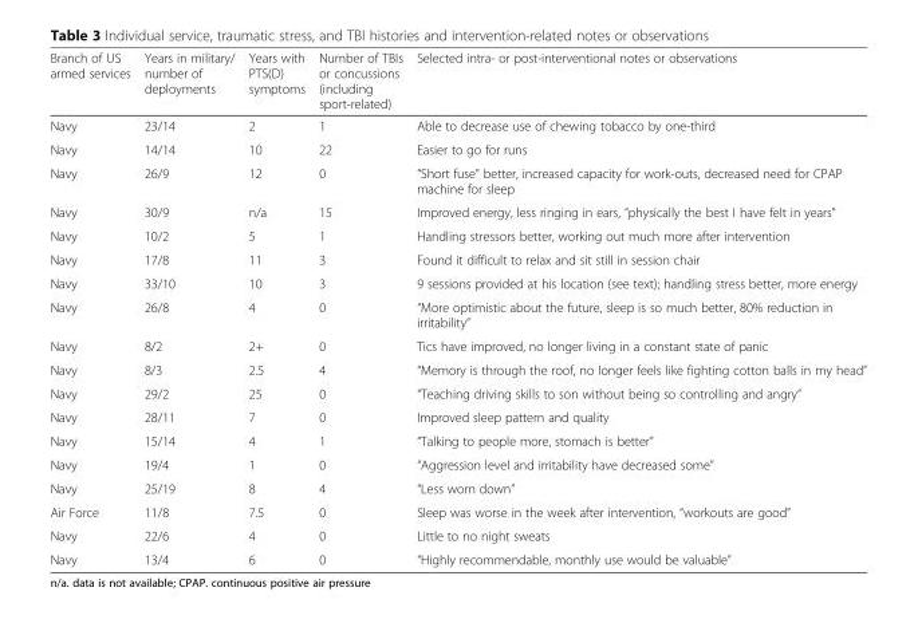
<table><thead><tr><td>Branch of US armed services</td><td>Years in military/ number of deployments</td><td>Years with PTS(D) symptoms</td><td>Number of TBIs or concussions (including sport-related)</td><td>Selected intra- or post-interventional notes or observations</td></tr></thead><tbody><tr><td>Navy</td><td>23/14</td><td>2</td><td>1</td><td>Able to decrease use of chewing tobacco by one-third</td></tr><tr><td>Navy</td><td>14/14</td><td>10</td><td>22</td><td>Easier to go for runs</td></tr><tr><td>Navy</td><td>26/9</td><td>12</td><td>0</td><td>“Short fuse” better, increased capacity for work-outs, decreased need for CPAP machine for sleep</td></tr><tr><td>Navy</td><td>30/9</td><td>n/a</td><td>15</td><td>Improved energy, less ringing in ears, “physically the best I have felt in years”</td></tr><tr><td>Navy</td><td>10/2</td><td>5</td><td>1</td><td>Handling stressors better, working out much more after intervention</td></tr><tr><td>Navy</td><td>17/8</td><td>11</td><td>3</td><td>Found it difficult to relax and sit still in session chair</td></tr><tr><td>Navy</td><td>33/10</td><td>10</td><td>3</td><td>9 sessions provided at his location (see text); handling stress better, more energy</td></tr><tr><td>Navy</td><td>26/8</td><td>4</td><td>0</td><td>“More optimistic about the future, sleep is so much better, 80% reduction in irritability”</td></tr><tr><td>Navy</td><td>8/2</td><td>2+</td><td>0</td><td>Tics have improved, no longer living in a constant state of panic</td></tr><tr><td>Navy</td><td>8/3</td><td>2.5</td><td>4</td><td>“Memory is through the roof, no longer feels like fighting cotton balls in my head”</td></tr><tr><td>Navy</td><td>29/2</td><td>25</td><td>0</td><td>“Teaching driving skills to son without being so controlling and angry”</td></tr><tr><td>Navy</td><td>28/11</td><td>7</td><td>0</td><td>Improved sleep pattern and quality</td></tr><tr><td>Navy</td><td>15/14</td><td>4</td><td>1</td><td>“Talking to people more, stomach is better”</td></tr><tr><td>Navy</td><td>19/4</td><td>1</td><td>0</td><td>“Aggression level and irritability have decreased some”</td></tr><tr><td>Navy</td><td>25/19</td><td>8</td><td>4</td><td>“Less worn down”</td></tr><tr><td>Air Force</td><td>11/8</td><td>7.5</td><td>0</td><td>Sleep was worse in the week after intervention, “workouts are good”</td></tr><tr><td>Navy</td><td>22/6</td><td>4</td><td>0</td><td>Little to no night sweats</td></tr><tr><td>Navy</td><td>13/4</td><td>6</td><td>0</td><td>“Highly recommendable, monthly use would be valuable”</td></tr></tbody></table>